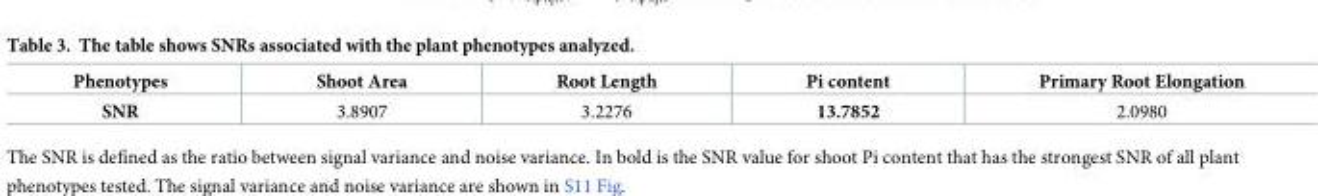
<table><thead><tr><td>Phenotypes</td><td>Shoot Area</td><td>Root Length</td><td>Pi content</td><td>Primary Root Elongation</td></tr></thead><tbody><tr><td>SNR</td><td>3.8907</td><td>3.2276</td><td>13.7852</td><td>2.0980</td></tr></tbody></table>